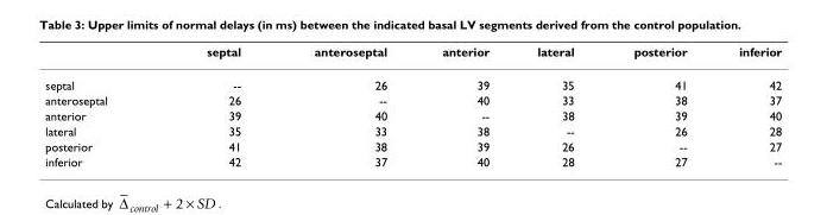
<table><thead><tr><td></td><td>septal</td><td>anteroseptal</td><td>anterior</td><td>lateral</td><td>posterior</td><td>inferior</td></tr></thead><tbody><tr><td>septal</td><td>--</td><td>26</td><td>39</td><td>35</td><td>41</td><td>42</td></tr><tr><td>anteroseptal</td><td>26</td><td>--</td><td>40</td><td>33</td><td>38</td><td>37</td></tr><tr><td>anterior</td><td>39</td><td>40</td><td>--</td><td>38</td><td>39</td><td>40</td></tr><tr><td>lateral</td><td>35</td><td>33</td><td>38</td><td>--</td><td>26</td><td>28</td></tr><tr><td>posterior</td><td>41</td><td>38</td><td>39</td><td>26</td><td>--</td><td>27</td></tr><tr><td>inferior</td><td>42</td><td>37</td><td>40</td><td>28</td><td>27</td><td>--</td></tr></tbody></table>